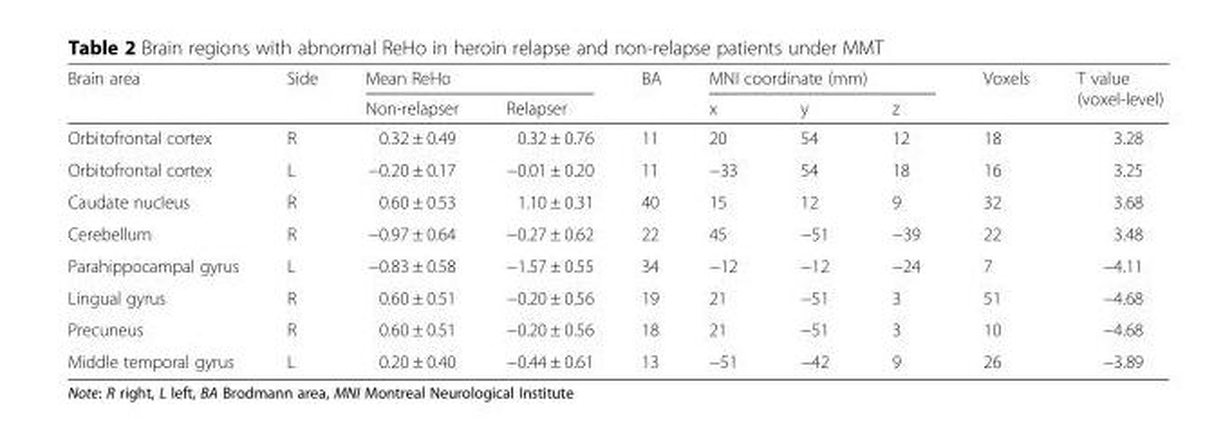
<table><thead><tr><td rowspan="2">Brain area</td><td rowspan="2">Side</td><td colspan="2">Mean ReHo</td><td rowspan="2">BA</td><td colspan="3">MNI coordinate (mm)</td><td rowspan="2">Voxels</td><td rowspan="2">T value (voxel-level)</td></tr><tr><td>Non-relapser</td><td>Relapser</td><td>x</td><td>y</td><td>z</td></tr></thead><tbody><tr><td>Orbitofrontal cortex</td><td>R</td><td>0.32 ± 0.49</td><td>0.32 ± 0.76</td><td>11</td><td>20</td><td>54</td><td>12</td><td>18</td><td>3.28</td></tr><tr><td>Orbitofrontal cortex</td><td>L</td><td>−0.20 ± 0.17</td><td>−0.01 ± 0.20</td><td>11</td><td>−33</td><td>54</td><td>18</td><td>16</td><td>3.25</td></tr><tr><td>Caudate nucleus</td><td>R</td><td>0.60 ± 0.53</td><td>1.10 ± 0.31</td><td>40</td><td>15</td><td>12</td><td>9</td><td>32</td><td>3.68</td></tr><tr><td>Cerebellum</td><td>R</td><td>−0.97 ± 0.64</td><td>−0.27 ± 0.62</td><td>22</td><td>45</td><td>−51</td><td>−39</td><td>22</td><td>3.48</td></tr><tr><td>Parahippocampal gyrus</td><td>L</td><td>−0.83 ± 0.58</td><td>−1.57 ± 0.55</td><td>34</td><td>−12</td><td>−12</td><td>−24</td><td>7</td><td>−4.11</td></tr><tr><td>Lingual gyrus</td><td>R</td><td>0.60 ± 0.51</td><td>−0.20 ± 0.56</td><td>19</td><td>21</td><td>−51</td><td>3</td><td>51</td><td>−4.68</td></tr><tr><td>Precuneus</td><td>R</td><td>0.60 ± 0.51</td><td>−0.20 ± 0.56</td><td>18</td><td>21</td><td>−51</td><td>3</td><td>10</td><td>−4.68</td></tr><tr><td>Middle temporal gyrus</td><td>L</td><td>0.20 ± 0.40</td><td>−0.44 ± 0.61</td><td>13</td><td>−51</td><td>−42</td><td>9</td><td>26</td><td>−3.89</td></tr></tbody></table>